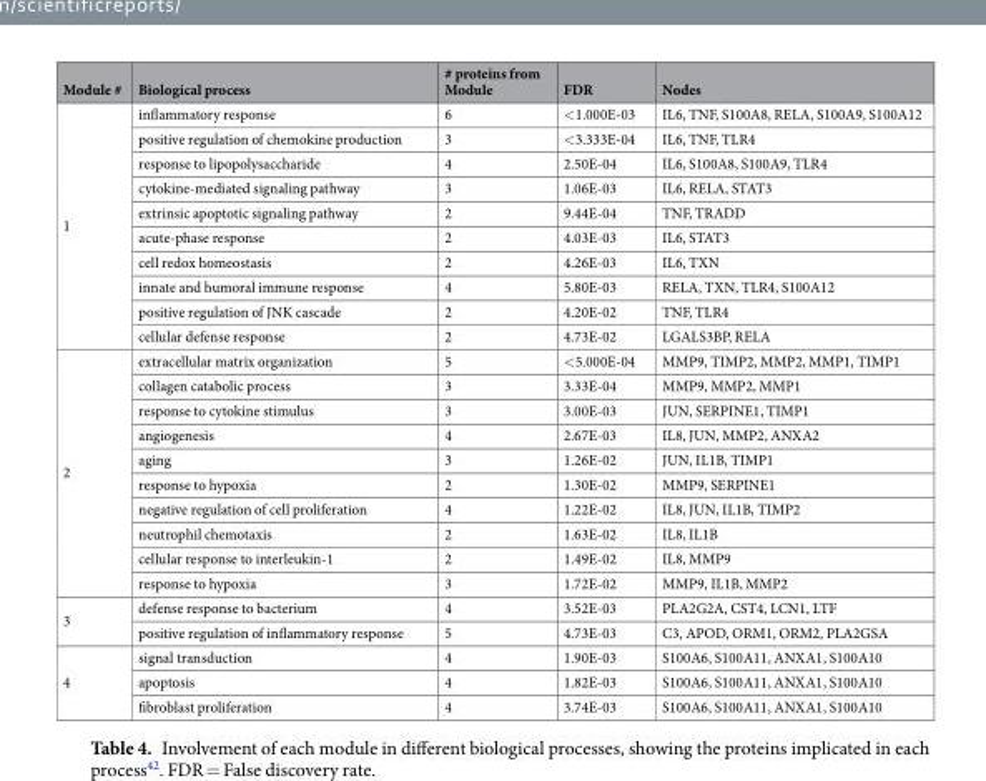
<table><thead><tr><td>Module #</td><td>Biological process</td><td># proteins from Module</td><td>FDR</td><td>Nodes</td></tr></thead><tbody><tr><td rowspan="10">1</td><td>inflammatory response</td><td>6</td><td>&lt;1.000E-03</td><td>IL6, TNF, S100A8, RELA, S100A9, S100A12</td></tr><tr><td>positive regulation of chemokine production</td><td>3</td><td>&lt;3.333E-04</td><td>IL6, TNF, TLR4</td></tr><tr><td>response to lipopolysaccharide</td><td>4</td><td>2.50E-04</td><td>IL6, S100A8, S100A9, TLR4</td></tr><tr><td>cytokine-mediated signaling pathway</td><td>3</td><td>1.06E-03</td><td>IL6, RELA, STAT3</td></tr><tr><td>extrinsic apoptotic signaling pathway</td><td>2</td><td>9.44E-04</td><td>TNF, TRADD</td></tr><tr><td>acute-phase response</td><td>2</td><td>4.03E-03</td><td>IL6, STAT3</td></tr><tr><td>cell redox homeostasis</td><td>2</td><td>4.26E-03</td><td>IL6, TXN</td></tr><tr><td>innate and humoral immune response</td><td>4</td><td>5.80E-03</td><td>RELA, TXN, TLR4, S100A12</td></tr><tr><td>positive regulation of JNK cascade</td><td>2</td><td>4.20E-02</td><td>TNF, TLR4</td></tr><tr><td>cellular defense response</td><td>2</td><td>4.73E-02</td><td>LGALS3BP, RELA</td></tr><tr><td rowspan="10">2</td><td>extracellular matrix organization</td><td>5</td><td>&lt;5.000E-04</td><td>MMP9, TIMP2, MMP2, MMP1, TIMP1</td></tr><tr><td>collagen catabolic process</td><td>3</td><td>3.33E-04</td><td>MMP9, MMP2, MMP1</td></tr><tr><td>response to cytokine stimulus</td><td>3</td><td>3.00E-03</td><td>JUN, SERPINE1, TIMP1</td></tr><tr><td>angiogenesis</td><td>4</td><td>2.67E-03</td><td>IL8, JUN, MMP2, ANXA2</td></tr><tr><td>aging</td><td>3</td><td>1.26E-02</td><td>JUN, IL1B, TIMP1</td></tr><tr><td>response to hypoxia</td><td>2</td><td>1.30E-02</td><td>MMP9, SERPINE1</td></tr><tr><td>negative regulation of cell proliferation</td><td>4</td><td>1.22E-02</td><td>IL8, JUN, IL1B, TIMP2</td></tr><tr><td>neutrophil chemotaxis</td><td>2</td><td>1.63E-02</td><td>IL8, IL1B</td></tr><tr><td>cellular response to interleukin-1</td><td>2</td><td>1.49E-02</td><td>IL8, MMP9</td></tr><tr><td>response to hypoxia</td><td>3</td><td>1.72E-02</td><td>MMP9, IL1B, MMP2</td></tr><tr><td rowspan="2">3</td><td>defense response to bacterium</td><td>4</td><td>3.52E-03</td><td>PLA2G2A, CST4, LCN1, LTF</td></tr><tr><td>positive regulation of inflammatory response</td><td>5</td><td>4.73E-03</td><td>C3, APOD, ORM1, ORM2, PLA2GSA</td></tr><tr><td rowspan="3">4</td><td>signal transduction</td><td>4</td><td>1.90E-03</td><td>S100A6, S100A11, ANXA1, S100A10</td></tr><tr><td>apoptosis</td><td>4</td><td>1.82E-03</td><td>S100A6, S100A11, ANXA1, S100A10</td></tr><tr><td>fibroblast proliferation</td><td>4</td><td>3.74E-03</td><td>S100A6, S100A11, ANXA1, S100A10</td></tr></tbody></table>